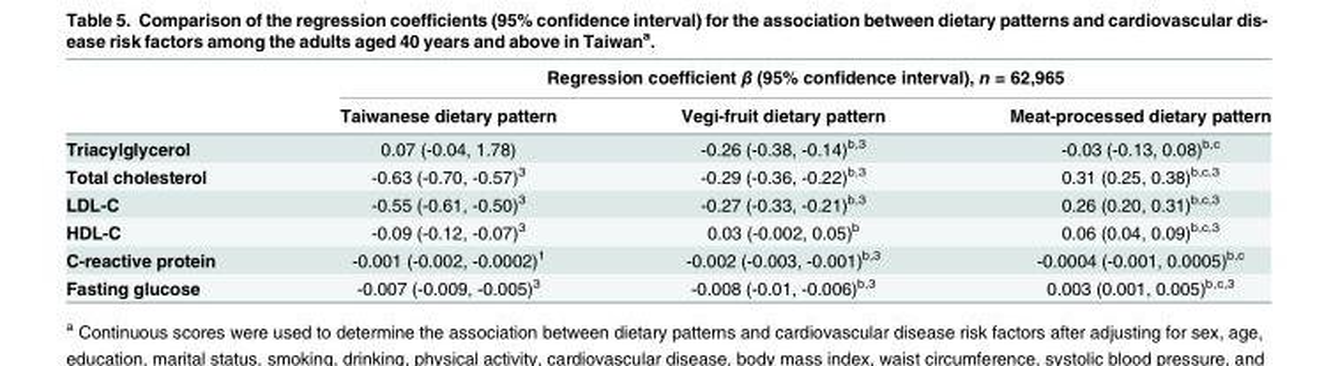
<table><thead><tr><td rowspan="2"></td><td colspan="3">Regression coefficient β (95% confidence interval), n = 62,965</td></tr><tr><td>Taiwanese dietary pattern</td><td>Vegi-fruit dietary pattern</td><td>Meat-processed dietary pattern</td></tr></thead><tbody><tr><td>Triacylglycerol</td><td>0.07 (-0.04, 1.78)</td><td>-0.26 (-0.38, -0.14)<sup>b,3</sup></td><td>-0.03 (-0.13, 0.08)<sup>b,c</sup></td></tr><tr><td>Total cholesterol</td><td>-0.63 (-0.70, -0.57)<sup>3</sup></td><td>-0.29 (-0.36, -0.22)<sup>b,3</sup></td><td>0.31 (0.25, 0.38)<sup>b,c,3</sup></td></tr><tr><td>LDL-C</td><td>-0.55 (-0.61, -0.50)<sup>3</sup></td><td>-0.27 (-0.33, -0.21)<sup>b,3</sup></td><td>0.26 (0.20, 0.31)<sup>b,c,3</sup></td></tr><tr><td>HDL-C</td><td>-0.09 (-0.12, -0.07)<sup>3</sup></td><td>0.03 (-0.002, 0.05)<sup>b</sup></td><td>0.06 (0.04, 0.09)<sup>b,c,3</sup></td></tr><tr><td>C-reactive protein</td><td>-0.001 (-0.002, -0.0002)<sup>1</sup></td><td>-0.002 (-0.003, -0.001)<sup>b,3</sup></td><td>-0.0004 (-0.001, 0.0005)<sup>b,c</sup></td></tr><tr><td>Fasting glucose</td><td>-0.007 (-0.009, -0.005)<sup>3</sup></td><td>-0.008 (-0.01, -0.006)<sup>b,3</sup></td><td>0.003 (0.001, 0.005)<sup>b,c,3</sup></td></tr></tbody></table>